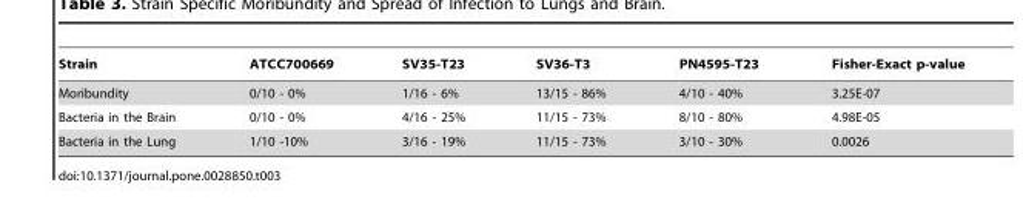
<table><thead><tr><td>Strain</td><td>ATCC700669</td><td>SV35-T23</td><td>SV36-T3</td><td>PN4595-T23</td><td>Fisher-Exact p-value</td></tr></thead><tbody><tr><td>Moribundity</td><td>0/10 - 0%</td><td>1/16 - 6%</td><td>13/15 - 86%</td><td>4/10 - 40%</td><td>3.25E-07</td></tr><tr><td>Bacteria in the Brain</td><td>0/10 - 0%</td><td>4/16 - 25%</td><td>11/15 - 73%</td><td>8/10 - 80%</td><td>4.98E-05</td></tr><tr><td>Bacteria in the Lung</td><td>1/10 -10%</td><td>3/16 - 19%</td><td>11/15 - 73%</td><td>3/10 - 30%</td><td>0.0026</td></tr></tbody></table>